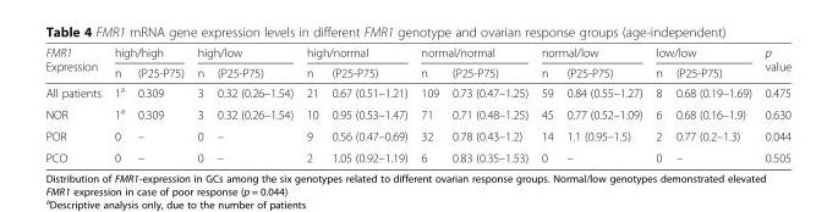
<table><thead><tr><td rowspan="2">FMR1 Expression</td><td colspan="2">high/high</td><td colspan="2">high/low</td><td colspan="2">high/normal</td><td colspan="2">normal/normal</td><td colspan="2">normal/low</td><td colspan="2">low/low</td><td rowspan="2">p value</td></tr><tr><td>n</td><td>(P25-P75)</td><td>n</td><td>(P25-P75)</td><td>n</td><td>(P25-P75)</td><td>n</td><td>(P25-P75)</td><td>n</td><td>(P25-P75)</td><td>n</td><td>(P25-P75)</td></tr></thead><tbody><tr><td>All patients</td><td>1<sup>a</sup></td><td>0.309</td><td>3</td><td>0.32 (0.26–1.54)</td><td>21</td><td>0.67 (0.51–1.21)</td><td>109</td><td>0.73 (0.47–1.25)</td><td>59</td><td>0.84 (0.55–1.27)</td><td>8</td><td>0.68 (0.19–1.69)</td><td>0.475</td></tr><tr><td>NOR</td><td>1<sup>a</sup></td><td>0.309</td><td>3</td><td>0.32 (0.26–1.54)</td><td>10</td><td>0.95 (0.53–1.47)</td><td>71</td><td>0.71 (0.48–1.25)</td><td>45</td><td>0.77 (0.52–1.09)</td><td>6</td><td>0.68 (0.16–1.9)</td><td>0.630</td></tr><tr><td>POR</td><td>0</td><td>–</td><td>0</td><td>–</td><td>9</td><td>0.56 (0.47–0.69)</td><td>32</td><td>0.78 (0.43–1.2)</td><td>14</td><td>1.1 (0.95–1.5)</td><td>2</td><td>0.77 (0.2–1.3)</td><td>0.044</td></tr><tr><td>PCO</td><td>0</td><td>–</td><td>0</td><td>–</td><td>2</td><td>1.05 (0.92–1.19)</td><td>6</td><td>0.83 (0.35–1.53)</td><td>0</td><td>–</td><td>0</td><td>–</td><td>0.505</td></tr></tbody></table>